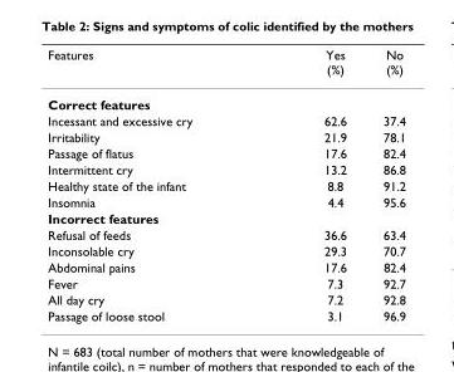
<table><thead><tr><td>Features</td><td>Yes (%)</td><td>No (%)</td></tr></thead><tbody><tr><td colspan="3">Correct features</td></tr><tr><td>Incessant and excessive cry</td><td>62.6</td><td>37.4</td></tr><tr><td>Irritability</td><td>21.9</td><td>78.1</td></tr><tr><td>Passage of flatus</td><td>17.6</td><td>82.4</td></tr><tr><td>Intermittent cry</td><td>13.2</td><td>86.8</td></tr><tr><td>Healthy state of the infant</td><td>8.8</td><td>91.2</td></tr><tr><td>Insomnia</td><td>4.4</td><td>95.6</td></tr><tr><td colspan="3">Incorrect features</td></tr><tr><td>Refusal of feeds</td><td>36.6</td><td>63.4</td></tr><tr><td>Inconsolable cry</td><td>29.3</td><td>70.7</td></tr><tr><td>Abdominal pains</td><td>17.6</td><td>82.4</td></tr><tr><td>Fever</td><td>7.3</td><td>92.7</td></tr><tr><td>All day cry</td><td>7.2</td><td>92.8</td></tr><tr><td>Passage of loose stool</td><td>3.1</td><td>96.9</td></tr></tbody></table>